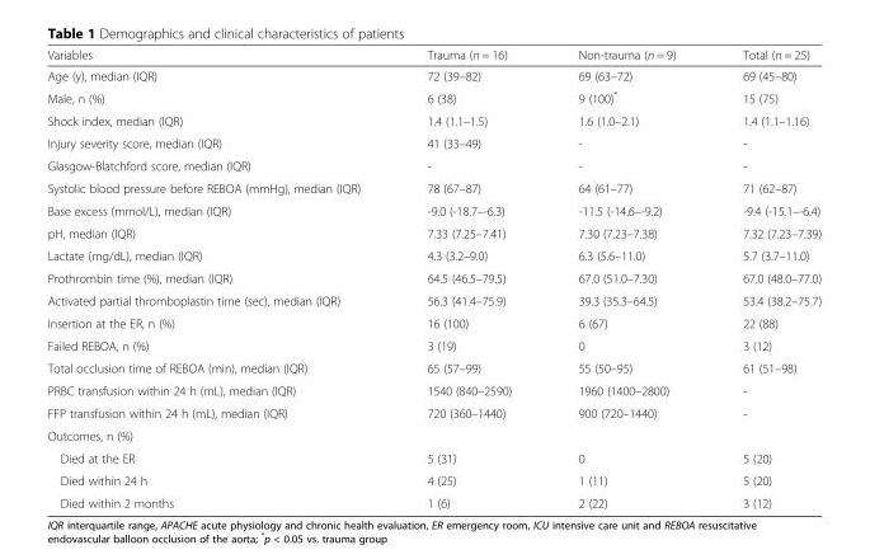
<table><thead><tr><td>Variables</td><td>Trauma (n = 16)</td><td>Non-trauma (n = 9)</td><td>Total (n = 25)</td></tr></thead><tbody><tr><td>Age (y), median (IQR)</td><td>72 (39–82)</td><td>69 (63–72)</td><td>69 (45–80)</td></tr><tr><td>Male, n (%)</td><td>6 (38)</td><td>9 (100)*</td><td>15 (75)</td></tr><tr><td>Shock index, median (IQR)</td><td>1.4 (1.1–1.5)</td><td>1.6 (1.0–2.1)</td><td>1.4 (1.1–1.16)</td></tr><tr><td>Injury severity score, median (IQR)</td><td>41 (33–49)</td><td>-</td><td>-</td></tr><tr><td>Glasgow-Blatchford score, median (IQR)</td><td>-</td><td>-</td><td>-</td></tr><tr><td>Systolic blood pressure before REBOA (mmHg), median (IQR)</td><td>78 (67–87)</td><td>64 (61–77)</td><td>71 (62–87)</td></tr><tr><td>Base excess (mmol/L), median (IQR)</td><td>-9.0 (-18.7–-6.3)</td><td>-11.5 (-14.6–-9.2)</td><td>-9.4 (-15.1–-6.4)</td></tr><tr><td>pH, median (IQR)</td><td>7.33 (7.25–7.41)</td><td>7.30 (7.23–7.38)</td><td>7.32 (7.23–7.39)</td></tr><tr><td>Lactate (mg/dL), median (IQR)</td><td>4.3 (3.2–9.0)</td><td>6.3 (5.6–11.0)</td><td>5.7 (3.7–11.0)</td></tr><tr><td>Prothrombin time (%), median (IQR)</td><td>64.5 (46.5–79.5)</td><td>67.0 (51.0–7.30)</td><td>67.0 (48.0–77.0)</td></tr><tr><td>Activated partial thromboplastin time (sec), median (IQR)</td><td>56.3 (41.4–75.9)</td><td>39.3 (35.3–64.5)</td><td>53.4 (38.2–75.7)</td></tr><tr><td>Insertion at the ER, n (%)</td><td>16 (100)</td><td>6 (67)</td><td>22 (88)</td></tr><tr><td>Failed REBOA, n (%)</td><td>3 (19)</td><td>0</td><td>3 (12)</td></tr><tr><td>Total occlusion time of REBOA (min), median (IQR)</td><td>65 (57–99)</td><td>55 (50–95)</td><td>61 (51–98)</td></tr><tr><td>PRBC transfusion within 24 h (mL), median (IQR)</td><td>1540 (840–2590)</td><td>1960 (1400–2800)</td><td>-</td></tr><tr><td>FFP transfusion within 24 h (mL), median (IQR)</td><td>720 (360–1440)</td><td>900 (720–1440)</td><td>-</td></tr><tr><td colspan="4">Outcomes, n (%)</td></tr><tr><td>Died at the ER</td><td>5 (31)</td><td>0</td><td>5 (20)</td></tr><tr><td>Died within 24 h</td><td>4 (25)</td><td>1 (11)</td><td>5 (20)</td></tr><tr><td>Died within 2 months</td><td>1 (6)</td><td>2 (22)</td><td>3 (12)</td></tr></tbody></table>